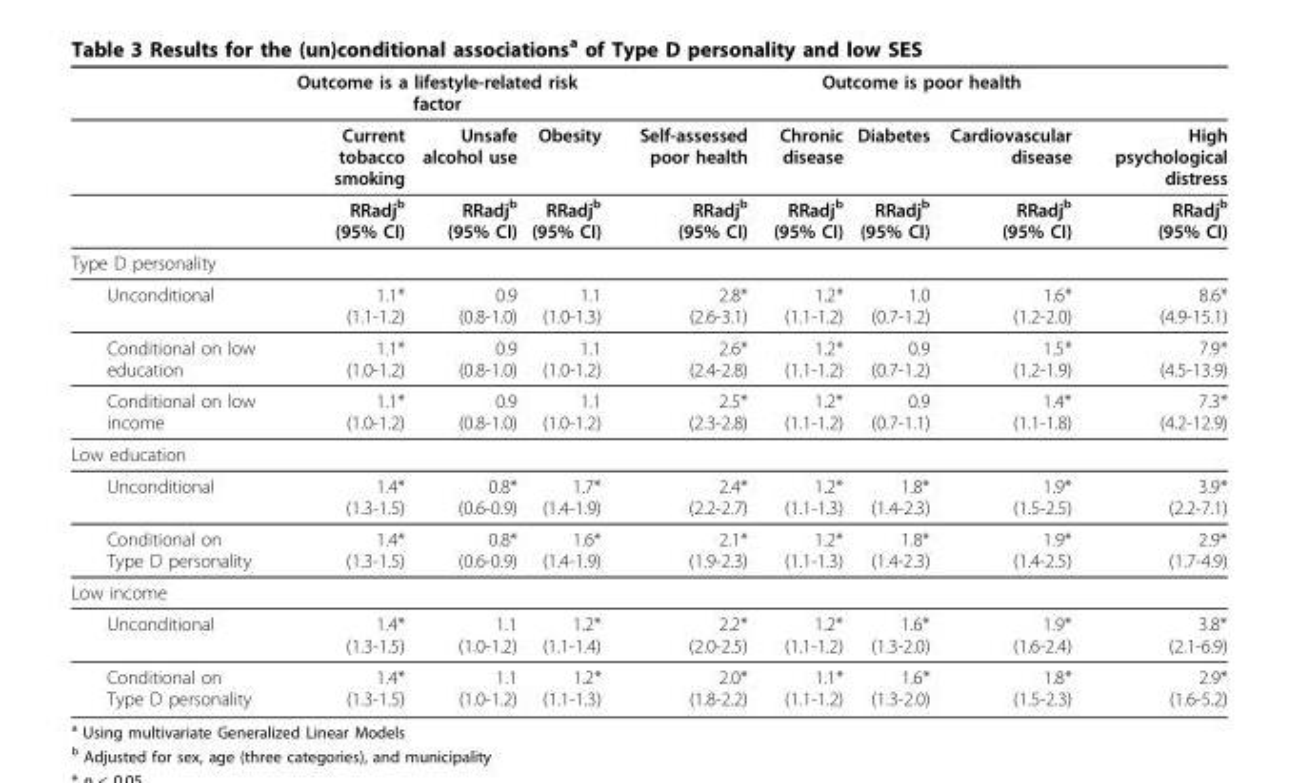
<table><thead><tr><td rowspan="2"></td><td colspan="3">Outcome is a lifestyle-related risk factor</td><td colspan="5">Outcome is poor health</td></tr><tr><td>Current tobacco smoking</td><td>Unsafe alcohol use</td><td>Obesity</td><td>Self-assessed poor health</td><td>Chronic disease</td><td>Diabetes</td><td>Cardiovascular disease</td><td>High psychological distress</td></tr></thead><tbody><tr><td></td><td>RRadj<sup>b</sup> (95% CI)</td><td>RRadj<sup>b</sup> (95% CI)</td><td>RRadj<sup>b</sup> (95% CI)</td><td>RRadj<sup>b</sup> (95% CI)</td><td>RRadj<sup>b</sup> (95% CI)</td><td>RRadj<sup>b</sup> (95% CI)</td><td>RRadj<sup>b</sup> (95% CI)</td><td>RRadj<sup>b</sup> (95% CI)</td></tr><tr><td colspan="9">Type D personality</td></tr><tr><td>Unconditional</td><td>1.1* (1.1-1.2)</td><td>0.9 (0.8-1.0)</td><td>1.1 (1.0-1.3)</td><td>2.8* (2.6-3.1)</td><td>1.2* (1.1-1.2)</td><td>1.0 (0.7-1.2)</td><td>1.6* (1.2-2.0)</td><td>8.6* (4.9-15.1)</td></tr><tr><td>Conditional on low education</td><td>1.1* (1.0-1.2)</td><td>0.9 (0.8-1.0)</td><td>1.1 (1.0-1.2)</td><td>2.6* (2.4-2.8)</td><td>1.2* (1.1-1.2)</td><td>0.9 (0.7-1.2)</td><td>1.5* (1.2-1.9)</td><td>7.9* (4.5-13.9)</td></tr><tr><td>Conditional on low income</td><td>1.1* (1.0-1.2)</td><td>0.9 (0.8-1.0)</td><td>1.1 (1.0-1.2)</td><td>2.5* (2.3-2.8)</td><td>1.2* (1.1-1.2)</td><td>0.9 (0.7-1.1)</td><td>1.4* (1.1-1.8)</td><td>7.3* (4.2-12.9)</td></tr><tr><td colspan="9">Low education</td></tr><tr><td>Unconditional</td><td>1.4* (1.3-1.5)</td><td>0.8* (0.6-0.9)</td><td>1.7* (1.4-1.9)</td><td>2.4* (2.2-2.7)</td><td>1.2* (1.1-1.3)</td><td>1.8* (1.4-2.3)</td><td>1.9* (1.5-2.5)</td><td>3.9* (2.2-7.1)</td></tr><tr><td>Conditional on Type D personality</td><td>1.4* (1.3-1.5)</td><td>0.8* (0.6-0.9)</td><td>1.6* (1.4-1.9)</td><td>2.1* (1.9-2.3)</td><td>1.2* (1.1-1.3)</td><td>1.8* (1.4-2.3)</td><td>1.9* (1.4-2.5)</td><td>2.9* (1.7-4.9)</td></tr><tr><td colspan="9">Low income</td></tr><tr><td>Unconditional</td><td>1.4* (1.3-1.5)</td><td>1.1 (1.0-1.2)</td><td>1.2* (1.1-1.4)</td><td>2.2* (2.0-2.5)</td><td>1.2* (1.1-1.2)</td><td>1.6* (1.3-2.0)</td><td>1.9* (1.6-2.4)</td><td>3.8* (2.1-6.9)</td></tr><tr><td>Conditional on Type D personality</td><td>1.4* (1.3-1.5)</td><td>1.1 (1.0-1.2)</td><td>1.2* (1.1-1.3)</td><td>2.0* (1.8-2.2)</td><td>1.1* (1.1-1.2)</td><td>1.6* (1.3-2.0)</td><td>1.8* (1.5-2.3)</td><td>2.9* (1.6-5.2)</td></tr></tbody></table>